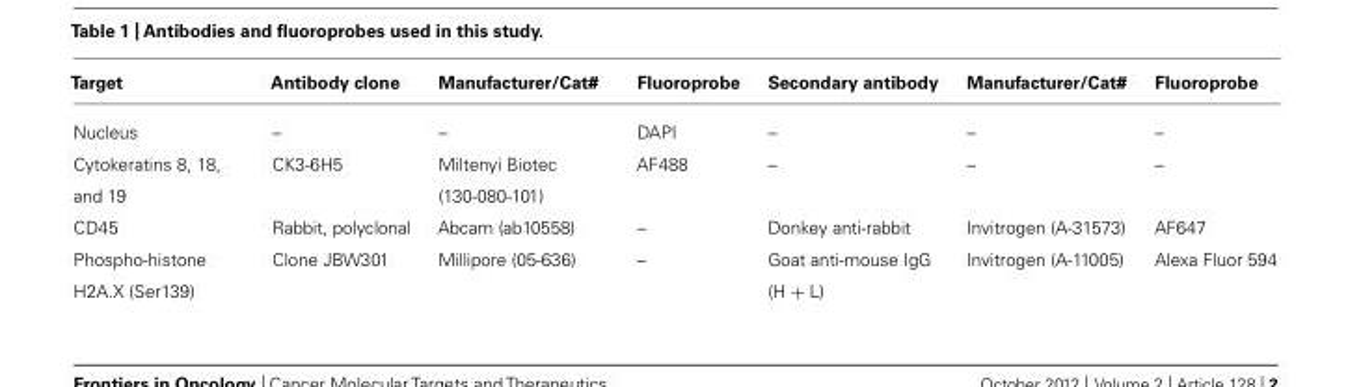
<table><thead><tr><td>Target</td><td>Antibody clone</td><td>Manufacturer/Cat#</td><td>Fluoroprobe</td><td>Secondary antibody</td><td>Manufacturer/Cat#</td><td>Fluoroprobe</td></tr></thead><tbody><tr><td>Nucleus</td><td>–</td><td>–</td><td>DAPI</td><td>–</td><td>–</td><td>–</td></tr><tr><td>Cytokeratins 8, 18, and 19</td><td>CK3-6H5</td><td>Miltenyi Biotec (130-080-101)</td><td>AF488</td><td>–</td><td>–</td><td>–</td></tr><tr><td>CD45</td><td>Rabbit, polyclonal</td><td>Abcam (ab10558)</td><td>–</td><td>Donkey anti-rabbit</td><td>Invitrogen (A-31573)</td><td>AF647</td></tr><tr><td>Phospho-histone H2A.X (Ser139)</td><td>Clone JBW301</td><td>Millipore (05-636)</td><td>–</td><td>Goat anti-mouse IgG (H + L)</td><td>Invitrogen (A-11005)</td><td>Alexa Fluor 594</td></tr></tbody></table>